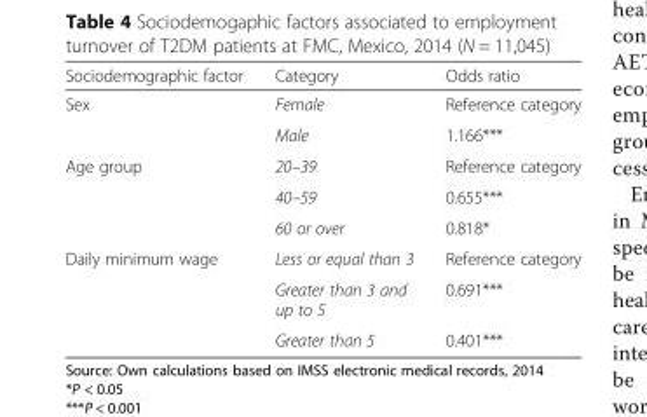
<table><thead><tr><td>Sociodemographic factor</td><td>Category</td><td>Odds ratio</td></tr></thead><tbody><tr><td rowspan="2">Sex</td><td>Female</td><td>Reference category</td></tr><tr><td>Male</td><td>1.166***</td></tr><tr><td rowspan="3">Age group</td><td>20–39</td><td>Reference category</td></tr><tr><td>40–59</td><td>0.655***</td></tr><tr><td>60 or over</td><td>0.818*</td></tr><tr><td rowspan="3">Daily minimum wage</td><td>Less or equal than 3</td><td>Reference category</td></tr><tr><td>Greater than 3 and up to 5</td><td>0.691***</td></tr><tr><td>Greater than 5</td><td>0.401***</td></tr></tbody></table>